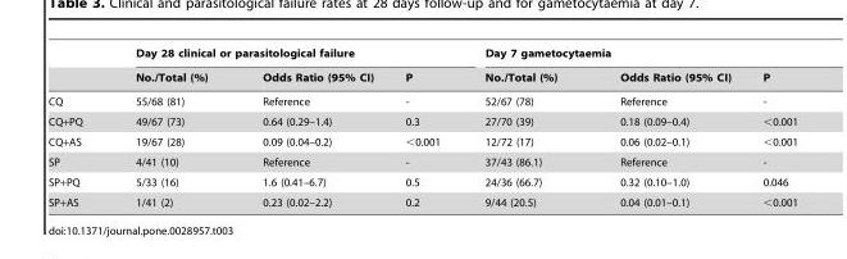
<table><thead><tr><td rowspan="2"></td><td colspan="3">Day 28 clinical or parasitological failure</td><td colspan="3">Day 7 gametocytaemia</td></tr><tr><td>No./Total (%)</td><td>Odds Ratio (95% CI)</td><td>P</td><td>No./Total (%)</td><td>Odds Ratio (95% CI)</td><td>P</td></tr></thead><tbody><tr><td>CQ</td><td>55/68 (81)</td><td>Reference</td><td>-</td><td>52/67 (78)</td><td>Reference</td><td>-</td></tr><tr><td>CQ+PQ</td><td>49/67 (73)</td><td>0.64 (0.29–1.4)</td><td>0.3</td><td>27/70 (39)</td><td>0.18 (0.09–0.4)</td><td>&lt;0.001</td></tr><tr><td>CQ+AS</td><td>19/67 (28)</td><td>0.09 (0.04–0.2)</td><td>&lt;0.001</td><td>12/72 (17)</td><td>0.06 (0.02–0.1)</td><td>&lt;0.001</td></tr><tr><td>SP</td><td>4/41 (10)</td><td>Reference</td><td>-</td><td>37/43 (86.1)</td><td>Reference</td><td>-</td></tr><tr><td>SP+PQ</td><td>5/33 (16)</td><td>1.6 (0.41–6.7)</td><td>0.5</td><td>24/36 (66.7)</td><td>0.32 (0.10–1.0)</td><td>0.046</td></tr><tr><td>SP+AS</td><td>1/41 (2)</td><td>0.23 (0.02–2.2)</td><td>0.2</td><td>9/44 (20.5)</td><td>0.04 (0.01–0.1)</td><td>&lt;0.001</td></tr></tbody></table>